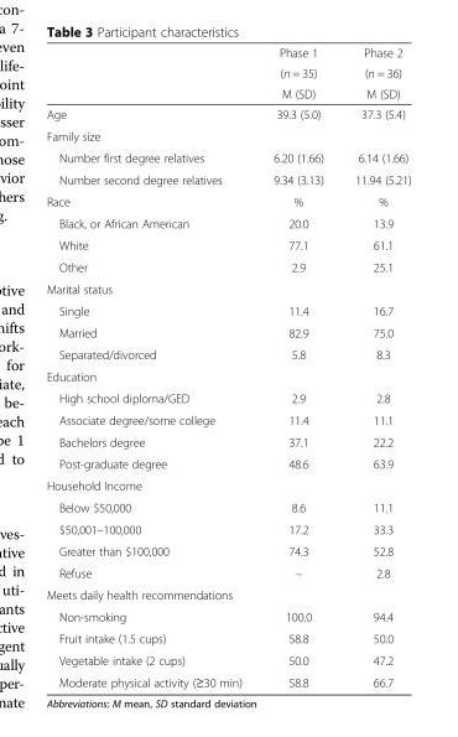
<table><thead><tr><td rowspan="3"></td><td rowspan="3">Phase 1 (n = 35) M (SD)</td><td rowspan="3">Phase 2 (n = 36) M (SD)</td></tr><tr></tr><tr></tr></thead><tbody><tr><td>Age</td><td>39.3 (5.0)</td><td>37.3 (5.4)</td></tr><tr><td colspan="3">Family size</td></tr><tr><td>Number first degree relatives</td><td>6.20 (1.66)</td><td>6.14 (1.66)</td></tr><tr><td>Number second degree relatives</td><td>9.34 (3.13)</td><td>11.94 (5.21)</td></tr><tr><td>Race</td><td>%</td><td>%</td></tr><tr><td>Black, or African American</td><td>20.0</td><td>13.9</td></tr><tr><td>White</td><td>77.1</td><td>61.1</td></tr><tr><td>Other</td><td>2.9</td><td>25.1</td></tr><tr><td colspan="3">Marital status</td></tr><tr><td>Single</td><td>11.4</td><td>16.7</td></tr><tr><td>Married</td><td>82.9</td><td>75.0</td></tr><tr><td>Separated/divorced</td><td>5.8</td><td>8.3</td></tr><tr><td colspan="3">Education</td></tr><tr><td>High school diploma/GED</td><td>2.9</td><td>2.8</td></tr><tr><td>Associate degree/some college</td><td>11.4</td><td>11.1</td></tr><tr><td>Bachelors degree</td><td>37.1</td><td>22.2</td></tr><tr><td>Post-graduate degree</td><td>48.6</td><td>63.9</td></tr><tr><td colspan="3">Household Income</td></tr><tr><td>Below $50,000</td><td>8.6</td><td>11.1</td></tr><tr><td>$50,001–100,000</td><td>17.2</td><td>33.3</td></tr><tr><td>Greater than $100,000</td><td>74.3</td><td>52.8</td></tr><tr><td>Refuse</td><td>–</td><td>2.8</td></tr><tr><td colspan="3">Meets daily health recommendations</td></tr><tr><td>Non-smoking</td><td>100.0</td><td>94.4</td></tr><tr><td>Fruit intake (1.5 cups)</td><td>58.8</td><td>50.0</td></tr><tr><td>Vegetable intake (2 cups)</td><td>50.0</td><td>47.2</td></tr><tr><td>Moderate physical activity (≥30 min)</td><td>58.8</td><td>66.7</td></tr></tbody></table>